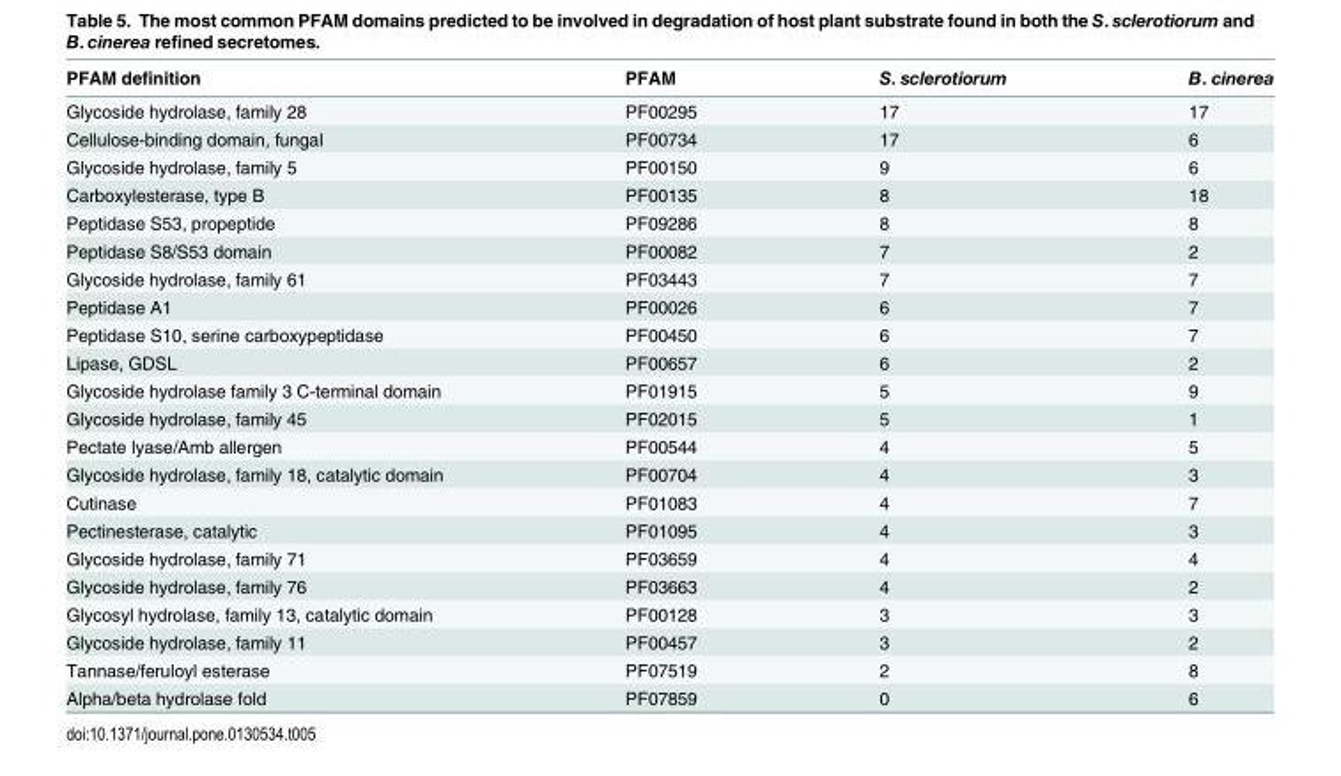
<table><thead><tr><td>PFAM definition</td><td>PFAM</td><td>S. sclerotiorum</td><td>B. cinerea</td></tr></thead><tbody><tr><td>Glycoside hydrolase, family 28</td><td>PF00295</td><td>17</td><td>17</td></tr><tr><td>Cellulose-binding domain, fungal</td><td>PF00734</td><td>17</td><td>6</td></tr><tr><td>Glycoside hydrolase, family 5</td><td>PF00150</td><td>9</td><td>6</td></tr><tr><td>Carboxylesterase, type B</td><td>PF00135</td><td>8</td><td>18</td></tr><tr><td>Peptidase S53, propeptide</td><td>PF09286</td><td>8</td><td>8</td></tr><tr><td>Peptidase S8/S53 domain</td><td>PF00082</td><td>7</td><td>2</td></tr><tr><td>Glycoside hydrolase, family 61</td><td>PF03443</td><td>7</td><td>7</td></tr><tr><td>Peptidase A1</td><td>PF00026</td><td>6</td><td>7</td></tr><tr><td>Peptidase S10, serine carboxypeptidase</td><td>PF00450</td><td>6</td><td>7</td></tr><tr><td>Lipase, GDSL</td><td>PF00657</td><td>6</td><td>2</td></tr><tr><td>Glycoside hydrolase family 3 C-terminal domain</td><td>PF01915</td><td>5</td><td>9</td></tr><tr><td>Glycoside hydrolase, family 45</td><td>PF02015</td><td>5</td><td>1</td></tr><tr><td>Pectate lyase/Amb allergen</td><td>PF00544</td><td>4</td><td>5</td></tr><tr><td>Glycoside hydrolase, family 18, catalytic domain</td><td>PF00704</td><td>4</td><td>3</td></tr><tr><td>Cutinase</td><td>PF01083</td><td>4</td><td>7</td></tr><tr><td>Pectinesterase, catalytic</td><td>PF01095</td><td>4</td><td>3</td></tr><tr><td>Glycoside hydrolase, family 71</td><td>PF03659</td><td>4</td><td>4</td></tr><tr><td>Glycoside hydrolase, family 76</td><td>PF03663</td><td>4</td><td>2</td></tr><tr><td>Glycosyl hydrolase, family 13, catalytic domain</td><td>PF00128</td><td>3</td><td>3</td></tr><tr><td>Glycoside hydrolase, family 11</td><td>PF00457</td><td>3</td><td>2</td></tr><tr><td>Tannase/feruloyl esterase</td><td>PF07519</td><td>2</td><td>8</td></tr><tr><td>Alpha/beta hydrolase fold</td><td>PF07859</td><td>0</td><td>6</td></tr></tbody></table>